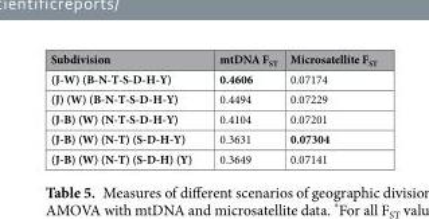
<table><thead><tr><td>Subdivision</td><td>mtDNA F<sub>ST</sub></td><td>Microsatellite F<sub>ST</sub></td></tr></thead><tbody><tr><td>(J-W) (B-N-T-S-D-H-Y)</td><td>0.4606</td><td>0.07174</td></tr><tr><td>(J) (W) (B-N-T-S-D-H-Y)</td><td>0.4494</td><td>0.07229</td></tr><tr><td>(J-B) (W) (N-T-S-D-H-Y)</td><td>0.4104</td><td>0.07201</td></tr><tr><td>(J-B) (W) (N-T) (S-D-H-Y)</td><td>0.3631</td><td>0.07304</td></tr><tr><td>(J-B) (W) (N-T) (S-D-H) (Y)</td><td>0.3649</td><td>0.07141</td></tr></tbody></table>